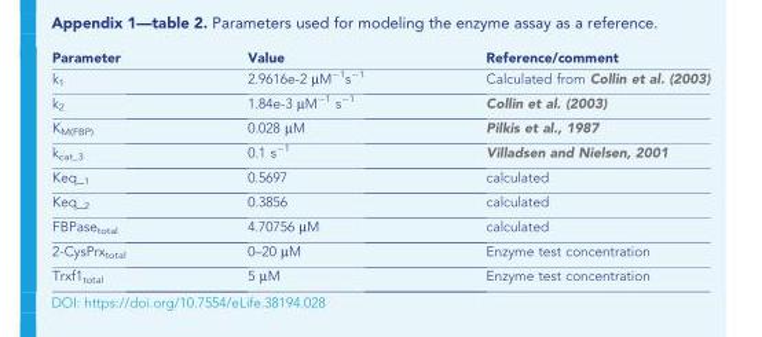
<table><thead><tr><td>Parameter</td><td>Value</td><td>Reference/comment</td></tr></thead><tbody><tr><td>k<sub>1</sub></td><td>2.9616e-2 µM<sup>−1</sup>s<sup>−1</sup></td><td>Calculated from Collin et al. (2003)</td></tr><tr><td>k<sub>2</sub></td><td>1.84e-3 µM<sup>−1</sup> s<sup>−1</sup></td><td>Collin et al. (2003)</td></tr><tr><td>K<sub>M(FBP)</sub></td><td>0.028 µM</td><td>Pilkis et al., 1987</td></tr><tr><td>k<sub>cat_3</sub></td><td>0.1 s<sup>−1</sup></td><td>Villadsen and Nielsen, 2001</td></tr><tr><td>Keq_1</td><td>0.5697</td><td>calculated</td></tr><tr><td>Keq_2</td><td>0.3856</td><td>calculated</td></tr><tr><td>FBPase<sub>total</sub></td><td>4.70756 µM</td><td>calculated</td></tr><tr><td>2-CysPrx<sub>total</sub></td><td>0–20 µM</td><td>Enzyme test concentration</td></tr><tr><td>Trxf1<sub>total</sub></td><td>5 µM</td><td>Enzyme test concentration</td></tr></tbody></table>